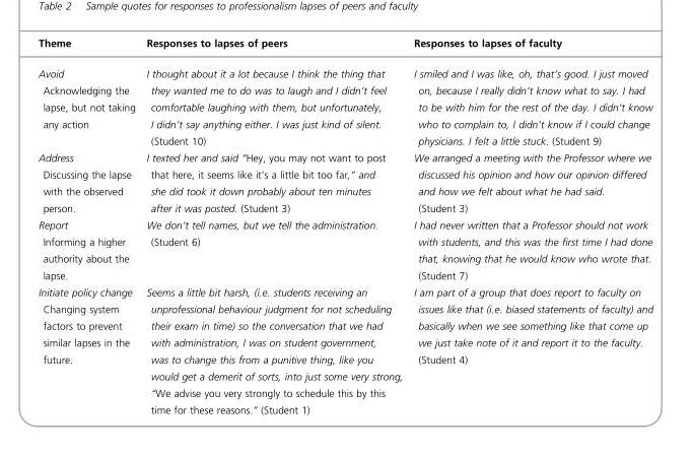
<table><thead><tr><td>Theme</td><td>Responses to lapses of peers</td><td>Responses to lapses of faculty</td></tr></thead><tbody><tr><td>Avoid Acknowledging the lapse, but not taking any action</td><td>I thought about it a lot because I think the thing that they wanted me to do was to laugh and I didn’t feel comfortable laughing with them, but unfortunately, I didn’t say anything either. I was just kind of silent. (Student 10)</td><td>I smiled and I was like, oh, that’s good. I just moved on, because I really didn’t know what to say. I had to be with him for the rest of the day. I didn’t know who to complain to, I didn’t know if I could change physicians. I felt a little stuck. (Student 9)</td></tr><tr><td>Address Discussing the lapse with the observed person.</td><td>I texted her and said “Hey, you may not want to post that here, it seems like it’s a little bit too far,” and she did took it down probably about ten minutes after it was posted. (Student 3)</td><td>We arranged a meeting with the Professor where we discussed his opinion and how our opinion differed and how we felt about what he had said. (Student 3)</td></tr><tr><td>Report Informing a higher authority about the lapse.</td><td>We don’t tell names, but we tell the administration. (Student 6)</td><td>I had never written that a Professor should not work with students, and this was the first time I had done that, knowing that he would know who wrote that. (Student 7)</td></tr><tr><td>Initiate policy change Changing system factors to prevent similar lapses in the future.</td><td>Seems a little bit harsh, (i.e. students receiving an unprofessional behaviour judgment for not scheduling their exam in time) so the conversation that we had with administration, I was on student government, was to change this from a punitive thing, like you would get a demerit of sorts, into just some very strong, “We advise you very strongly to schedule this by this time for these reasons.” (Student 1)</td><td>I am part of a group that does report to faculty on issues like that (i.e. biased statements of faculty) and basically when we see something like that come up we just take note of it and report it to the faculty. (Student 4)</td></tr></tbody></table>